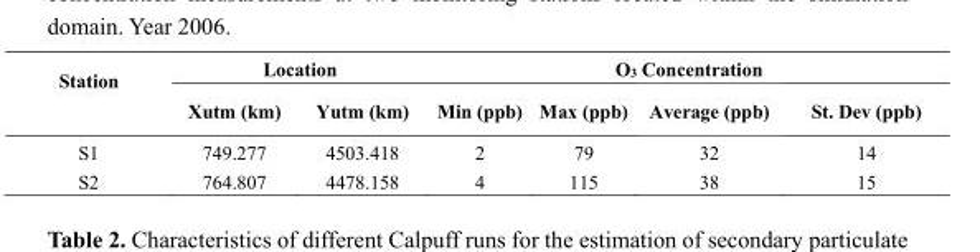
<table><thead><tr><td rowspan="2">Station</td><td colspan="2">Location</td><td colspan="4">O<sub>3</sub> Concentration</td></tr><tr><td>Xutm (km)</td><td>Yutm (km)</td><td>Min (ppb)</td><td>Max (ppb)</td><td>Average (ppb)</td><td>St. Dev (ppb)</td></tr></thead><tbody><tr><td>S1</td><td>749.277</td><td>4503.418</td><td>2</td><td>79</td><td>32</td><td>14</td></tr><tr><td>S2</td><td>764.807</td><td>4478.158</td><td>4</td><td>115</td><td>38</td><td>15</td></tr></tbody></table>